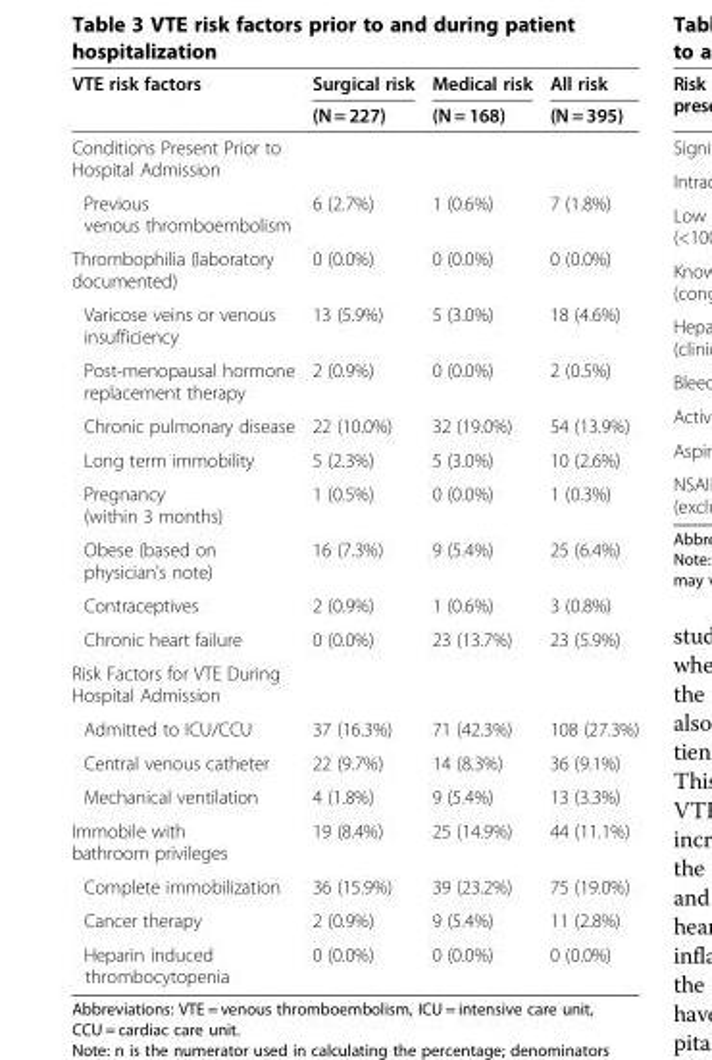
<table><thead><tr><td rowspan="2">VTE risk factors</td><td rowspan="2">Surgical risk (N = 227)</td><td rowspan="2">Medical risk (N = 168)</td><td rowspan="2">All risk (N = 395)</td></tr><tr></tr></thead><tbody><tr><td colspan="4">Conditions Present Prior to Hospital Admission</td></tr><tr><td>Previous venous thromboembolism</td><td>6 (2.7%)</td><td>1 (0.6%)</td><td>7 (1.8%)</td></tr><tr><td>Thrombophilia (laboratory documented)</td><td>0 (0.0%)</td><td>0 (0.0%)</td><td>0 (0.0%)</td></tr><tr><td>Varicose veins or venous insufficiency</td><td>13 (5.9%)</td><td>5 (3.0%)</td><td>18 (4.6%)</td></tr><tr><td>Post-menopausal hormone replacement therapy</td><td>2 (0.9%)</td><td>0 (0.0%)</td><td>2 (0.5%)</td></tr><tr><td>Chronic pulmonary disease</td><td>22 (10.0%)</td><td>32 (19.0%)</td><td>54 (13.9%)</td></tr><tr><td>Long term immobility</td><td>5 (2.3%)</td><td>5 (3.0%)</td><td>10 (2.6%)</td></tr><tr><td>Pregnancy (within 3 months)</td><td>1 (0.5%)</td><td>0 (0.0%)</td><td>1 (0.3%)</td></tr><tr><td>Obese (based on physician&#x27;s note)</td><td>16 (7.3%)</td><td>9 (5.4%)</td><td>25 (6.4%)</td></tr><tr><td>Contraceptives</td><td>2 (0.9%)</td><td>1 (0.6%)</td><td>3 (0.8%)</td></tr><tr><td>Chronic heart failure</td><td>0 (0.0%)</td><td>23 (13.7%)</td><td>23 (5.9%)</td></tr><tr><td colspan="4">Risk Factors for VTE During Hospital Admission</td></tr><tr><td>Admitted to ICU/CCU</td><td>37 (16.3%)</td><td>71 (42.3%)</td><td>108 (27.3%)</td></tr><tr><td>Central venous catheter</td><td>22 (9.7%)</td><td>14 (8.3%)</td><td>36 (9.1%)</td></tr><tr><td>Mechanical ventilation</td><td>4 (1.8%)</td><td>9 (5.4%)</td><td>13 (3.3%)</td></tr><tr><td>Immobile with bathroom privileges</td><td>19 (8.4%)</td><td>25 (14.9%)</td><td>44 (11.1%)</td></tr><tr><td>Complete immobilization</td><td>36 (15.9%)</td><td>39 (23.2%)</td><td>75 (19.0%)</td></tr><tr><td>Cancer therapy</td><td>2 (0.9%)</td><td>9 (5.4%)</td><td>11 (2.8%)</td></tr><tr><td>Heparin induced thrombocytopenia</td><td>0 (0.0%)</td><td>0 (0.0%)</td><td>0 (0.0%)</td></tr></tbody></table>